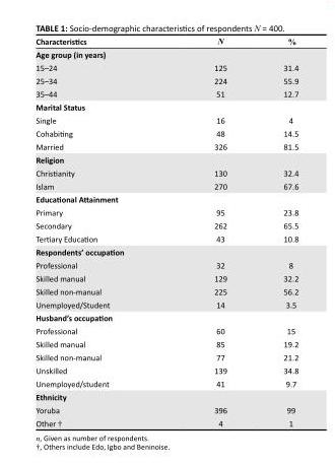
<table><thead><tr><td>Characteristics</td><td>N</td><td>%</td></tr></thead><tbody><tr><td colspan="3">Age group (in years)</td></tr><tr><td>15–24</td><td>125</td><td>31.4</td></tr><tr><td>25–34</td><td>224</td><td>55.9</td></tr><tr><td>35–44</td><td>51</td><td>12.7</td></tr><tr><td colspan="3">Marital Status</td></tr><tr><td>Single</td><td>16</td><td>4</td></tr><tr><td>Cohabiting</td><td>48</td><td>14.5</td></tr><tr><td>Married</td><td>326</td><td>81.5</td></tr><tr><td colspan="3">Religion</td></tr><tr><td>Christianity</td><td>130</td><td>32.4</td></tr><tr><td>Islam</td><td>270</td><td>67.6</td></tr><tr><td colspan="3">Educational Attainment</td></tr><tr><td>Primary</td><td>95</td><td>23.8</td></tr><tr><td>Secondary</td><td>262</td><td>65.5</td></tr><tr><td>Tertiary Education</td><td>43</td><td>10.8</td></tr><tr><td colspan="3">Respondents’ occupation</td></tr><tr><td>Professional</td><td>32</td><td>8</td></tr><tr><td>Skilled manual</td><td>129</td><td>32.2</td></tr><tr><td>Skilled non-manual</td><td>225</td><td>56.2</td></tr><tr><td>Unemployed/Student</td><td>14</td><td>3.5</td></tr><tr><td colspan="3">Husband’s occupation</td></tr><tr><td>Professional</td><td>60</td><td>15</td></tr><tr><td>Skilled manual</td><td>85</td><td>19.2</td></tr><tr><td>Skilled non-manual</td><td>77</td><td>21.2</td></tr><tr><td>Unskilled</td><td>139</td><td>34.8</td></tr><tr><td>Unemployed/student</td><td>41</td><td>9.7</td></tr><tr><td colspan="3">Ethnicity</td></tr><tr><td>Yoruba</td><td>396</td><td>99</td></tr><tr><td>Other †</td><td>4</td><td>1</td></tr></tbody></table>